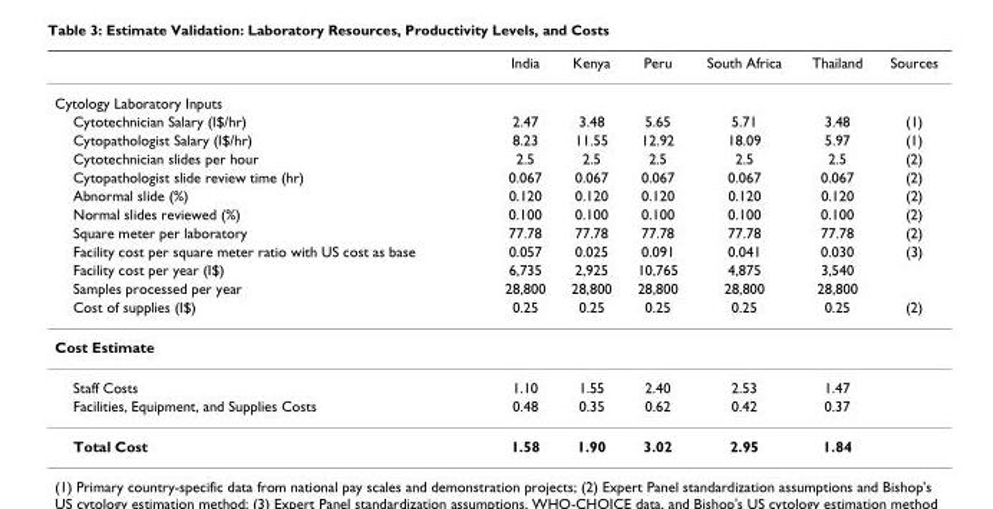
<table><thead><tr><td></td><td>India</td><td>Kenya</td><td>Peru</td><td>South Africa</td><td>Thailand</td><td>Sources</td></tr></thead><tbody><tr><td colspan="7">Cytology Laboratory Inputs</td></tr><tr><td>Cytotechnician Salary (I$/hr)</td><td>2.47</td><td>3.48</td><td>5.65</td><td>5.71</td><td>3.48</td><td>(1)</td></tr><tr><td>Cytopathologist Salary (I$/hr)</td><td>8.23</td><td>11.55</td><td>12.92</td><td>18.09</td><td>5.97</td><td>(1)</td></tr><tr><td>Cytotechnician slides per hour</td><td>2.5</td><td>2.5</td><td>2.5</td><td>2.5</td><td>2.5</td><td>(2)</td></tr><tr><td>Cytopathologist slide review time (hr)</td><td>0.067</td><td>0.067</td><td>0.067</td><td>0.067</td><td>0.067</td><td>(2)</td></tr><tr><td>Abnormal slide (%)</td><td>0.120</td><td>0.120</td><td>0.120</td><td>0.120</td><td>0.120</td><td>(2)</td></tr><tr><td>Normal slides reviewed (%)</td><td>0.100</td><td>0.100</td><td>0.100</td><td>0.100</td><td>0.100</td><td>(2)</td></tr><tr><td>Square meter per laboratory</td><td>77.78</td><td>77.78</td><td>77.78</td><td>77.78</td><td>77.78</td><td>(2)</td></tr><tr><td>Facility cost per square meter ratio with US cost as base</td><td>0.057</td><td>0.025</td><td>0.091</td><td>0.041</td><td>0.030</td><td>(3)</td></tr><tr><td>Facility cost per year (I$)</td><td>6,735</td><td>2,925</td><td>10,765</td><td>4,875</td><td>3,540</td><td></td></tr><tr><td>Samples processed per year</td><td>28,800</td><td>28,800</td><td>28,800</td><td>28,800</td><td>28,800</td><td></td></tr><tr><td>Cost of supplies (I$)</td><td>0.25</td><td>0.25</td><td>0.25</td><td>0.25</td><td>0.25</td><td>(2)</td></tr><tr><td colspan="7">Cost Estimate</td></tr><tr><td>Staff Costs</td><td>1.10</td><td>1.55</td><td>2.40</td><td>2.53</td><td>1.47</td><td></td></tr><tr><td>Facilities, Equipment, and Supplies Costs</td><td>0.48</td><td>0.35</td><td>0.62</td><td>0.42</td><td>0.37</td><td></td></tr><tr><td>Total Cost</td><td>1.58</td><td>1.90</td><td>3.02</td><td>2.95</td><td>1.84</td><td></td></tr></tbody></table>